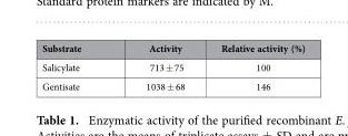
<table><thead><tr><td>Substrate</td><td>Activity</td><td>Relative activity (%)</td></tr></thead><tbody><tr><td>Salicylate</td><td>713 ± 75</td><td>100</td></tr><tr><td>Gentisate</td><td>1038 ± 68</td><td>146</td></tr></tbody></table>